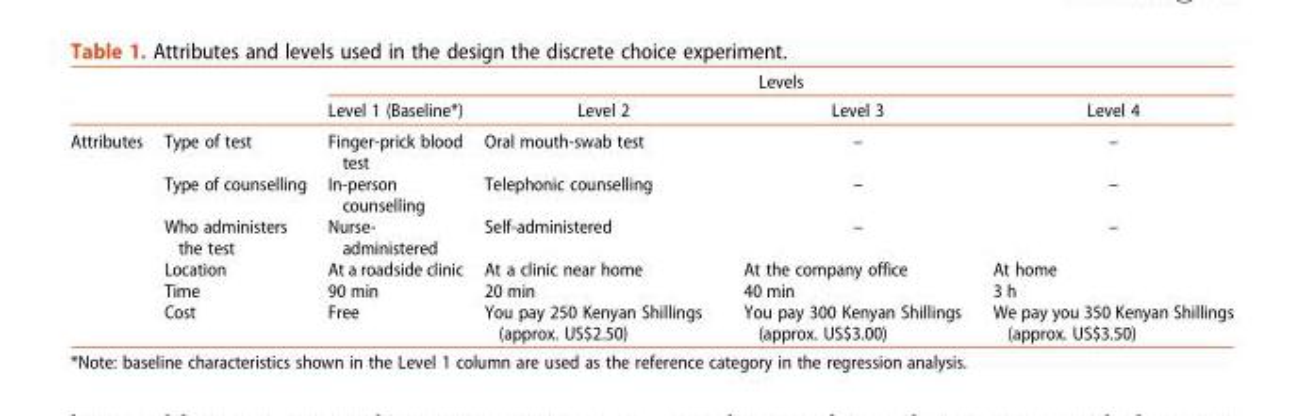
<table><thead><tr><td rowspan="2"></td><td rowspan="2"></td><td colspan="4">Levels</td></tr><tr><td>Level 1 (Baseline*)</td><td>Level 2</td><td>Level 3</td><td>Level 4</td></tr></thead><tbody><tr><td rowspan="6">Attributes</td><td>Type of test</td><td>Finger-prick blood test</td><td>Oral mouth-swab test</td><td>–</td><td>–</td></tr><tr><td>Type of counselling</td><td>In-person counselling</td><td>Telephonic counselling</td><td>–</td><td>–</td></tr><tr><td>Who administers the test</td><td>Nurse- administered</td><td>Self-administered</td><td>–</td><td>–</td></tr><tr><td>Location</td><td>At a roadside clinic</td><td>At a clinic near home</td><td>At the company office</td><td>At home</td></tr><tr><td>Time</td><td>90 min</td><td>20 min</td><td>40 min</td><td>3 h</td></tr><tr><td>Cost</td><td>Free</td><td>You pay 250 Kenyan Shillings (approx. US$2.50)</td><td>You pay 300 Kenyan Shillings (approx. US$3.00)</td><td>We pay you 350 Kenyan Shillings (approx. US$3.50)</td></tr></tbody></table>